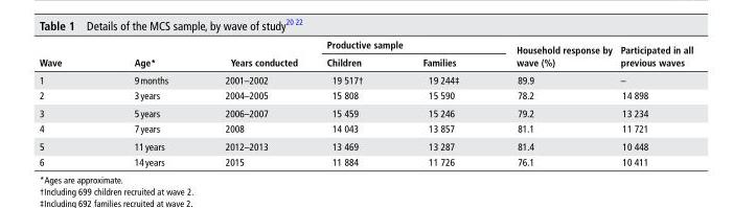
<table><thead><tr><td rowspan="2">Wave</td><td rowspan="2">Age*</td><td rowspan="2">Years conducted</td><td colspan="2">Productive sample</td><td rowspan="2">household response by wave (%)</td><td rowspan="2">Participated in all previous waves</td></tr><tr><td>Children</td><td>Families</td></tr></thead><tbody><tr><td>1</td><td>9 months</td><td>2001–2002</td><td>19 517†</td><td>19 244‡</td><td>89.9</td><td>–</td></tr><tr><td>2</td><td>3 years</td><td>2004–2005</td><td>15 808</td><td>15 590</td><td>78.2</td><td>14 898</td></tr><tr><td>3</td><td>5 years</td><td>2006–2007</td><td>15 459</td><td>15 246</td><td>79.2</td><td>13 234</td></tr><tr><td>4</td><td>7 years</td><td>2008</td><td>14 043</td><td>13 857</td><td>81.1</td><td>11 721</td></tr><tr><td>5</td><td>11 years</td><td>2012–2013</td><td>13 469</td><td>13 287</td><td>81.4</td><td>10 448</td></tr><tr><td>6</td><td>14 years</td><td>2015</td><td>11 884</td><td>11 726</td><td>76.1</td><td>10 411</td></tr></tbody></table>